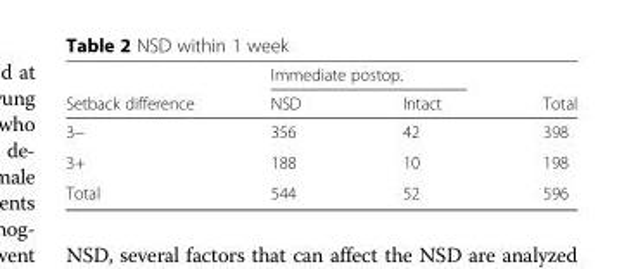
<table><thead><tr><td rowspan="2">Setback difference</td><td colspan="2">Immediate postop.</td><td rowspan="2">Total</td></tr><tr><td>NSD</td><td>Intact</td></tr></thead><tbody><tr><td>3−</td><td>356</td><td>42</td><td>398</td></tr><tr><td>3+</td><td>188</td><td>10</td><td>198</td></tr><tr><td>Total</td><td>544</td><td>52</td><td>596</td></tr></tbody></table>